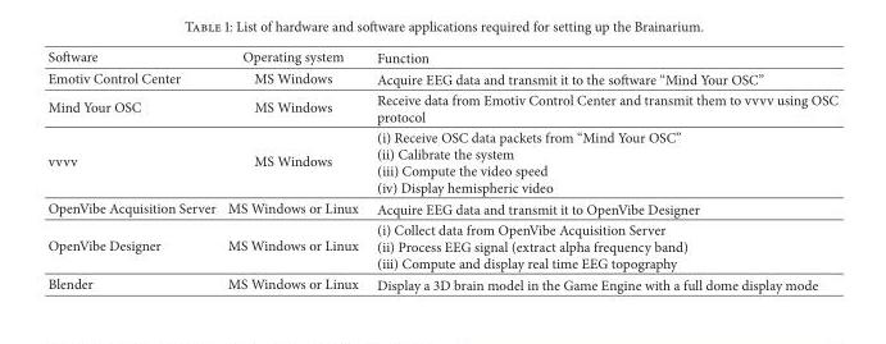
<table><thead><tr><td>Software</td><td>Operating system</td><td>Function</td></tr></thead><tbody><tr><td>Emotiv Control Center</td><td>MS Windows</td><td>Acquire EEG data and transmit it to the software “Mind Your OSC”</td></tr><tr><td>Mind Your OSC</td><td>MS Windows</td><td>Receive data from Emotiv Control Center and transmit them to vvvv using OSC protocol</td></tr><tr><td>vvvv</td><td>MS Windows</td><td>(i) Receive OSC data packets from “Mind Your OSC” (ii) Calibrate the system (iii) Compute the video speed (iv) Display hemispheric video</td></tr><tr><td>OpenVibe Acquisition Server</td><td>MS Windows or Linux</td><td>Acquire EEG data and transmit it to OpenVibe Designer</td></tr><tr><td>OpenVibe Designer</td><td>MS Windows or Linux</td><td>(i) Collect data from OpenVibe Acquisition Server (ii) Process EEG signal (extract alpha frequency band) (iii) Compute and display real time EEG topography</td></tr><tr><td>Blender</td><td>MS Windows or Linux</td><td>Display a 3D brain model in the Game Engine with a full dome display mode</td></tr></tbody></table>